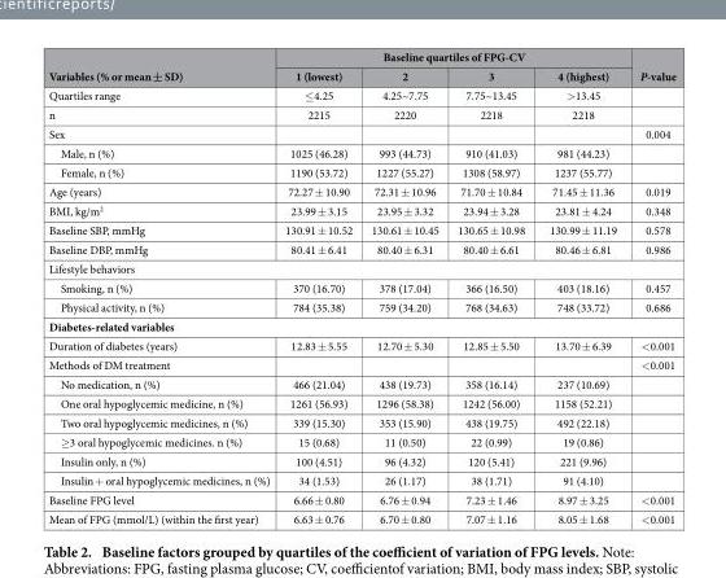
<table><thead><tr><td rowspan="2">Variables (% or mean ± SD)</td><td colspan="4">Baseline quartiles of FPG-CV</td><td rowspan="2">P-value</td></tr><tr><td>1 (lowest)</td><td>2</td><td>3</td><td>4 (highest)</td></tr></thead><tbody><tr><td>Quartiles range</td><td>≤ 4.25</td><td>4.25~7.75</td><td>7.75~13.45</td><td>&gt; 13.45</td><td></td></tr><tr><td>n</td><td>2215</td><td>2220</td><td>2218</td><td>2218</td><td></td></tr><tr><td>Sex</td><td></td><td></td><td></td><td></td><td>0.004</td></tr><tr><td>Male, n (%)</td><td>1025 (46.28)</td><td>993 (44.73)</td><td>910 (41.03)</td><td>981 (44.23)</td><td></td></tr><tr><td>Female, n (%)</td><td>1190 (53.72)</td><td>1227 (55.27)</td><td>1308 (58.97)</td><td>1237 (55.77)</td><td></td></tr><tr><td>Age (years)</td><td>72.27 ± 10.90</td><td>72.31 ± 10.96</td><td>71.70 ± 10.84</td><td>71.45 ± 11.36</td><td>0.019</td></tr><tr><td>BMI, kg/m<sup>2</sup></td><td>23.99 ± 3.15</td><td>23.95 ± 3.32</td><td>23.94 ± 3.28</td><td>23.81 ± 4.24</td><td>0.348</td></tr><tr><td>Baseline SBP, mmHg</td><td>130.91 ± 10.52</td><td>130.61 ± 10.45</td><td>130.65 ± 10.98</td><td>130.99 ± 11.19</td><td>0.578</td></tr><tr><td>Baseline DBP, mmHg</td><td>80.41 ± 6.41</td><td>80.40 ± 6.31</td><td>80.40 ± 6.61</td><td>80.46 ± 6.81</td><td>0.986</td></tr><tr><td colspan="6">Lifestyle behaviors</td></tr><tr><td>Smoking, n (%)</td><td>370 (16.70)</td><td>378 (17.04)</td><td>366 (16.50)</td><td>403 (18.16)</td><td>0.457</td></tr><tr><td>Physical activity, n (%)</td><td>784 (35.38)</td><td>759 (34.20)</td><td>768 (34.63)</td><td>748 (33.72)</td><td>0.686</td></tr><tr><td colspan="6">Diabetes-related variables</td></tr><tr><td>Duration of diabetes (years)</td><td>12.83 ± 5.55</td><td>12.70 ± 5.30</td><td>12.85 ± 5.50</td><td>13.70 ± 6.39</td><td>&lt; 0.001</td></tr><tr><td>Methods of DM treatment</td><td></td><td></td><td></td><td></td><td>&lt; 0.001</td></tr><tr><td>No medication, n (%)</td><td>466 (21.04)</td><td>438 (19.73)</td><td>358 (16.14)</td><td>237 (10.69)</td><td></td></tr><tr><td>One oral hypoglycemic medicine, n (%)</td><td>1261 (56.93)</td><td>1296 (58.38)</td><td>1242 (56.00)</td><td>1158 (52.21)</td><td></td></tr><tr><td>Two oral hypoglycemic medicines, n (%)</td><td>339 (15.30)</td><td>353 (15.90)</td><td>438 (19.75)</td><td>492 (22.18)</td><td></td></tr><tr><td>≥ 3 oral hypoglycemic medicines. n (%)</td><td>15 (0.68)</td><td>11 (0.50)</td><td>22 (0.99)</td><td>19 (0.86)</td><td></td></tr><tr><td>Insulin only, n (%)</td><td>100 (4.51)</td><td>96 (4.32)</td><td>120 (5.41)</td><td>221 (9.96)</td><td></td></tr><tr><td>Insulin + oral hypoglycemic medicines, n (%)</td><td>34 (1.53)</td><td>26 (1.17)</td><td>38 (1.71)</td><td>91 (4.10)</td><td></td></tr><tr><td>Baseline FPG level</td><td>6.66 ± 0.80</td><td>6.76 ± 0.94</td><td>7.23 ± 1.46</td><td>8.97 ± 3.25</td><td>&lt; 0.001</td></tr><tr><td>Mean of FPG (mmol/L) (within the first year)</td><td>6.63 ± 0.76</td><td>6.70 ± 0.80</td><td>7.07 ± 1.16</td><td>8.05 ± 1.68</td><td>&lt; 0.001</td></tr></tbody></table>